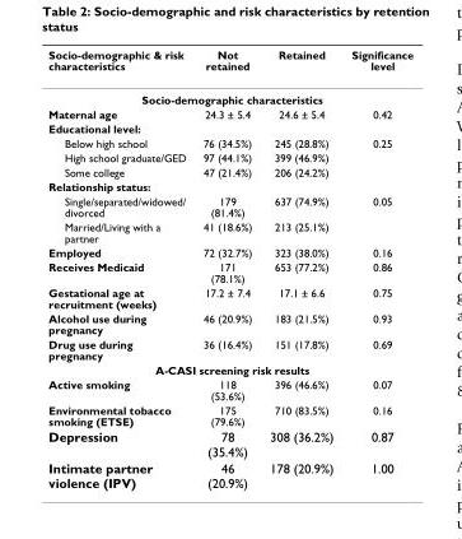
<table><thead><tr><td>Socio-demographic &amp; risk characteristics</td><td>Not retained</td><td>Retained</td><td>Significance level</td></tr></thead><tbody><tr><td colspan="4">Socio-demographic characteristics</td></tr><tr><td>Maternal age</td><td>24.3 ± 5.4</td><td>24.6 ± 5.4</td><td>0.42</td></tr><tr><td colspan="4">Educational level:</td></tr><tr><td>Below high school</td><td>76 (34.5%)</td><td>245 (28.8%)</td><td>0.25</td></tr><tr><td>High school graduate/GED</td><td>97 (44.1%)</td><td>399 (46.9%)</td><td></td></tr><tr><td>Some college</td><td>47 (21.4%)</td><td>206 (24.2%)</td><td></td></tr><tr><td colspan="4">Relationship status:</td></tr><tr><td>Single/separated/widowed/ divorced</td><td>179 (81.4%)</td><td>637 (74.9%)</td><td>0.05</td></tr><tr><td>Married/Living with a partner</td><td>41 (18.6%)</td><td>213 (25.1%)</td><td></td></tr><tr><td>Employed</td><td>72 (32.7%)</td><td>323 (38.0%)</td><td>0.16</td></tr><tr><td>Receives Medicaid</td><td>171 (78.1%)</td><td>653 (77.2%)</td><td>0.86</td></tr><tr><td>Gestational age at recruitment (weeks)</td><td>17.2 ± 7.4</td><td>17.1 ± 6.6</td><td>0.75</td></tr><tr><td>Alcohol use during pregnancy</td><td>46 (20.9%)</td><td>183 (21.5%)</td><td>0.93</td></tr><tr><td>Drug use during pregnancy</td><td>36 (16.4%)</td><td>151 (17.8%)</td><td>0.69</td></tr><tr><td colspan="4">A-CASI screening risk results</td></tr><tr><td>Active smoking</td><td>118 (53.6%)</td><td>396 (46.6%)</td><td>0.07</td></tr><tr><td>Environmental tobacco smoking (ETSE)</td><td>175 (79.6%)</td><td>710 (83.5%)</td><td>0.16</td></tr><tr><td>Depression</td><td>78 (35.4%)</td><td>308 (36.2%)</td><td>0.87</td></tr><tr><td>Intimate partner violence (IPV)</td><td>46 (20.9%)</td><td>178 (20.9%)</td><td>1.00</td></tr></tbody></table>